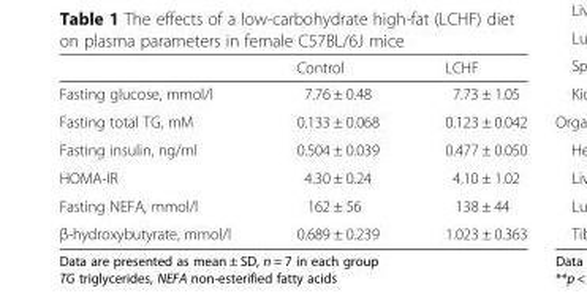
<table><thead><tr><td></td><td>Control</td><td>LCHF</td></tr></thead><tbody><tr><td>Fasting glucose, mmol/l</td><td>7.76 ± 0.48</td><td>7.73 ± 1.05</td></tr><tr><td>Fasting total TG, mM</td><td>0.133 ± 0.068</td><td>0.123 ± 0.042</td></tr><tr><td>Fasting insulin, ng/ml</td><td>0.504 ± 0.039</td><td>0.477 ± 0.050</td></tr><tr><td>HOMA-IR</td><td>4.30 ± 0.24</td><td>4.10 ± 1.02</td></tr><tr><td>Fasting NEFA, mmol/l</td><td>162 ± 56</td><td>138 ± 44</td></tr><tr><td>β-hydroxybutyrate, mmol/l</td><td>0.689 ± 0.239</td><td>1.023 ± 0.363</td></tr></tbody></table>